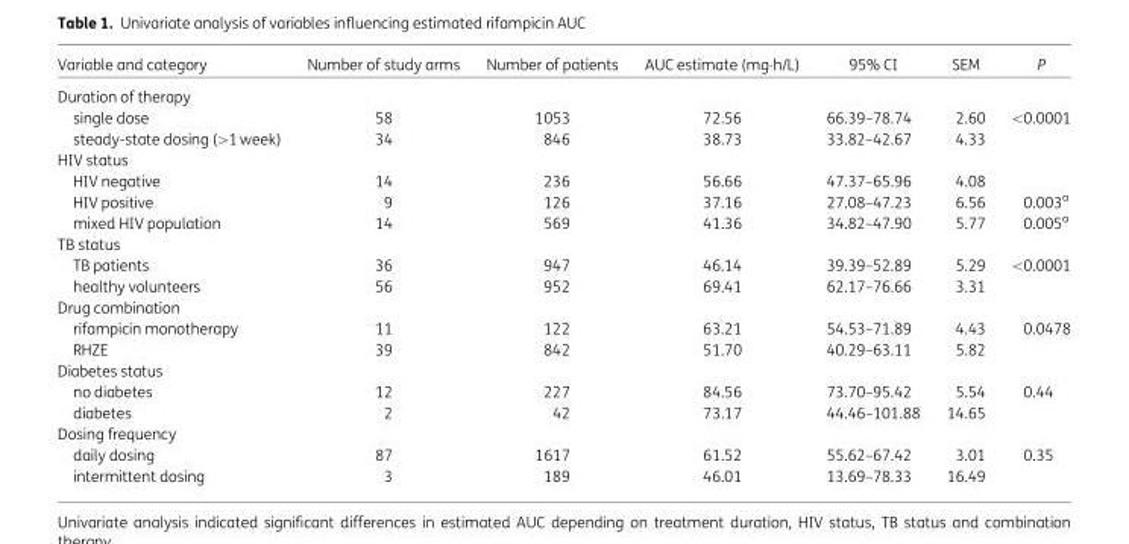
<table><thead><tr><td>Variable and category</td><td>Number of study arms</td><td>Number of patients</td><td>AUC estimate (mg·h/L)</td><td>95% CI</td><td>SEM</td><td>P</td></tr></thead><tbody><tr><td colspan="7">Duration of therapy</td></tr><tr><td>single dose</td><td>58</td><td>1053</td><td>72.56</td><td>66.39–78.74</td><td>2.60</td><td rowspan="2">&lt;0.0001</td></tr><tr><td>steady-state dosing (&gt;1 week)</td><td>34</td><td>846</td><td>38.73</td><td>33.82–42.67</td><td>4.33</td></tr><tr><td colspan="7">HIV status</td></tr><tr><td>HIV negative</td><td>14</td><td>236</td><td>56.66</td><td>47.37–65.96</td><td>4.08</td><td></td></tr><tr><td>HIV positive</td><td>9</td><td>126</td><td>37.16</td><td>27.08–47.23</td><td>6.56</td><td>0.003<sup>a</sup></td></tr><tr><td>mixed HIV population</td><td>14</td><td>569</td><td>41.36</td><td>34.82–47.90</td><td>5.77</td><td>0.005<sup>a</sup></td></tr><tr><td colspan="7">TB status</td></tr><tr><td>TB patients</td><td>36</td><td>947</td><td>46.14</td><td>39.39–52.89</td><td>5.29</td><td rowspan="2">&lt;0.0001</td></tr><tr><td>healthy volunteers</td><td>56</td><td>952</td><td>69.41</td><td>62.17–76.66</td><td>3.31</td></tr><tr><td colspan="7">Drug combination</td></tr><tr><td>rifampicin monotherapy</td><td>11</td><td>122</td><td>63.21</td><td>54.53–71.89</td><td>4.43</td><td rowspan="2">0.0478</td></tr><tr><td>RHZE</td><td>39</td><td>842</td><td>51.70</td><td>40.29–63.11</td><td>5.82</td></tr><tr><td colspan="7">Diabetes status</td></tr><tr><td>no diabetes</td><td>12</td><td>227</td><td>84.56</td><td>73.70–95.42</td><td>5.54</td><td rowspan="2">0.44</td></tr><tr><td>diabetes</td><td>2</td><td>42</td><td>73.17</td><td>44.46–101.88</td><td>14.65</td></tr><tr><td colspan="7">Dosing frequency</td></tr><tr><td>daily dosing</td><td>87</td><td>1617</td><td>61.52</td><td>55.62–67.42</td><td>3.01</td><td rowspan="2">0.35</td></tr><tr><td>intermittent dosing</td><td>3</td><td>189</td><td>46.01</td><td>13.69–78.33</td><td>16.49</td></tr></tbody></table>